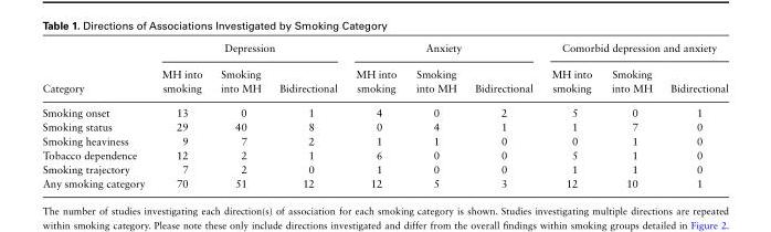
<table><thead><tr><td rowspan="2">Category</td><td colspan="3">Depression</td><td colspan="3">Anxiety</td><td colspan="3">Comorbid depression and anxiety</td></tr><tr><td>MH into smoking</td><td>Smoking into MH</td><td>Bidirectional</td><td>MH into smoking</td><td>Smoking into MH</td><td>Bidirectional</td><td>MH into smoking</td><td>Smoking into MH</td><td>Bidirectional</td></tr></thead><tbody><tr><td>Smoking onset</td><td>13</td><td>0</td><td>1</td><td>4</td><td>0</td><td>2</td><td>5</td><td>0</td><td>1</td></tr><tr><td>Smoking status</td><td>29</td><td>40</td><td>8</td><td>0</td><td>4</td><td>1</td><td>1</td><td>7</td><td>0</td></tr><tr><td>Smoking heaviness</td><td>9</td><td>7</td><td>2</td><td>1</td><td>1</td><td>0</td><td>0</td><td>1</td><td>0</td></tr><tr><td>Tobacco dependence</td><td>12</td><td>2</td><td>1</td><td>6</td><td>0</td><td>0</td><td>5</td><td>1</td><td>0</td></tr><tr><td>Smoking trajectory</td><td>7</td><td>2</td><td>0</td><td>1</td><td>0</td><td>0</td><td>1</td><td>1</td><td>0</td></tr><tr><td>Any smoking category</td><td>70</td><td>51</td><td>12</td><td>12</td><td>5</td><td>3</td><td>12</td><td>10</td><td>1</td></tr></tbody></table>